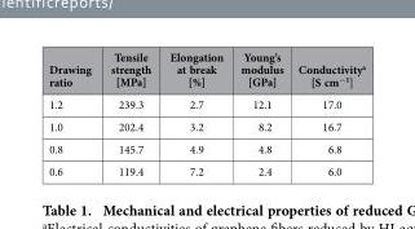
<table><thead><tr><td>Drawing ratio</td><td>Tensile strength [MPa]</td><td>Elongation at break [%]</td><td>Young’s modulus [GPa]</td><td>Conductivity<sup>a</sup> [S cm<sup>−1</sup>]</td></tr></thead><tbody><tr><td>1.2</td><td>239.3</td><td>2.7</td><td>12.1</td><td>17.0</td></tr><tr><td>1.0</td><td>202.4</td><td>3.2</td><td>8.2</td><td>16.7</td></tr><tr><td>0.8</td><td>145.7</td><td>4.9</td><td>4.8</td><td>6.8</td></tr><tr><td>0.6</td><td>119.4</td><td>7.2</td><td>2.4</td><td>6.0</td></tr></tbody></table>